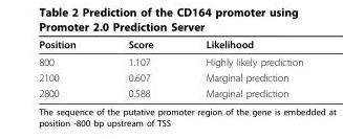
<table><thead><tr><td>Position</td><td>Score</td><td>Likelihood</td></tr></thead><tbody><tr><td>800</td><td>1.107</td><td>Highly likely prediction</td></tr><tr><td>2100</td><td>0.607</td><td>Marginal prediction</td></tr><tr><td>2800</td><td>0.588</td><td>Marginal prediction</td></tr></tbody></table>